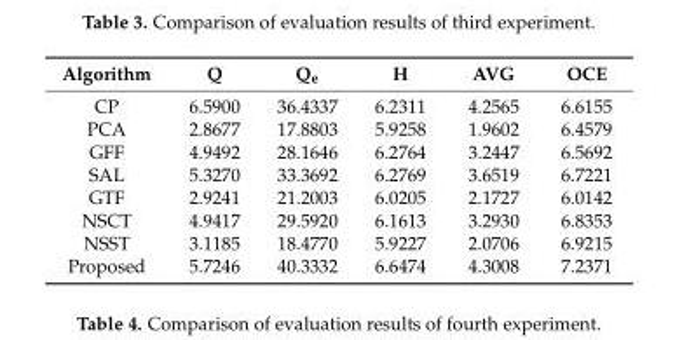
<table><thead><tr><td>Algorithm</td><td>Q</td><td>Q<sub>e</sub></td><td>H</td><td>AVG</td><td>OCE</td></tr></thead><tbody><tr><td>CP</td><td>6.5900</td><td>36.4337</td><td>6.2311</td><td>4.2565</td><td>6.6155</td></tr><tr><td>PCA</td><td>2.8677</td><td>17.8803</td><td>5.9258</td><td>1.9602</td><td>6.4579</td></tr><tr><td>GFF</td><td>4.9492</td><td>28.1646</td><td>6.2764</td><td>3.2447</td><td>6.5692</td></tr><tr><td>SAL</td><td>5.3270</td><td>33.3692</td><td>6.2769</td><td>3.6519</td><td>6.7221</td></tr><tr><td>GTF</td><td>2.9241</td><td>21.2003</td><td>6.0205</td><td>2.1727</td><td>6.0142</td></tr><tr><td>NSCT</td><td>4.9417</td><td>29.5920</td><td>6.1613</td><td>3.2930</td><td>6.8353</td></tr><tr><td>NSST</td><td>3.1185</td><td>18.4770</td><td>5.9227</td><td>2.0706</td><td>6.9215</td></tr><tr><td>Proposed</td><td>5.7246</td><td>40.3332</td><td>6.6474</td><td>4.3008</td><td>7.2371</td></tr></tbody></table>